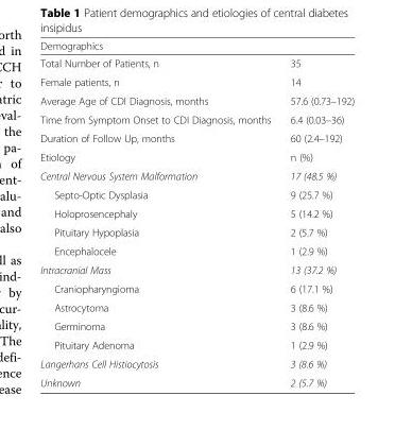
<table><thead><tr><td>Demographics</td><td></td></tr></thead><tbody><tr><td>Total Number of Patients, n</td><td>35</td></tr><tr><td>Female patients, n</td><td>14</td></tr><tr><td>Average Age of CDI Diagnosis, months</td><td>57.6 (0.73–192)</td></tr><tr><td>Time from Symptom Onset to CDI Diagnosis, months</td><td>6.4 (0.03–36)</td></tr><tr><td>Duration of Follow Up, months</td><td>60 (2.4–192)</td></tr><tr><td>Etiology</td><td>n (%)</td></tr><tr><td>Central Nervous System Malformation</td><td>17 (48.5 %)</td></tr><tr><td>Septo-Optic Dysplasia</td><td>9 (25.7 %)</td></tr><tr><td>Holoprosencephaly</td><td>5 (14.2 %)</td></tr><tr><td>Pituitary Hypoplasia</td><td>2 (5.7 %)</td></tr><tr><td>Encephalocele</td><td>1 (2.9 %)</td></tr><tr><td>Intracranial Mass</td><td>13 (37.2 %)</td></tr><tr><td>Craniopharyngioma</td><td>6 (17.1 %)</td></tr><tr><td>Astrocytoma</td><td>3 (8.6 %)</td></tr><tr><td>Germinoma</td><td>3 (8.6 %)</td></tr><tr><td>Pituitary Adenoma</td><td>1 (2.9 %)</td></tr><tr><td>Langerhans Cell Histiocytosis</td><td>3 (8.6 %)</td></tr><tr><td>Unknown</td><td>2 (5.7 %)</td></tr></tbody></table>